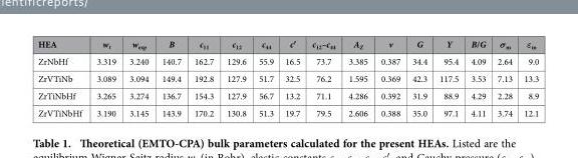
<table><thead><tr><td>HEA</td><td>w<sub>t</sub></td><td>w<sub>exp</sub></td><td>B</td><td>c<sub>11</sub></td><td>c<sub>12</sub></td><td>c<sub>44</sub></td><td>c′</td><td>c<sub>12</sub>–c<sub>44</sub></td><td>A<sub>Z</sub></td><td>v</td><td>G</td><td>Y</td><td>B/G</td><td>σ<sub>m</sub></td><td>ε<sub>m</sub></td></tr></thead><tbody><tr><td>ZrNbHf</td><td>3.319</td><td>3.240</td><td>140.7</td><td>162.7</td><td>129.6</td><td>55.9</td><td>16.5</td><td>73.7</td><td>3.385</td><td>0.387</td><td>34.4</td><td>95.4</td><td>4.09</td><td>2.64</td><td>9.0</td></tr><tr><td>ZrVTiNb</td><td>3.089</td><td>3.094</td><td>149.4</td><td>192.8</td><td>127.9</td><td>51.7</td><td>32.5</td><td>76.2</td><td>1.595</td><td>0.369</td><td>42.3</td><td>117.5</td><td>3.53</td><td>7.13</td><td>13.3</td></tr><tr><td>ZrTiNbHf</td><td>3.265</td><td>3.274</td><td>136.7</td><td>154.3</td><td>127.9</td><td>56.7</td><td>13.2</td><td>71.1</td><td>4.286</td><td>0.392</td><td>31.9</td><td>88.9</td><td>4.29</td><td>2.28</td><td>8.9</td></tr><tr><td>ZrVTiNbHf</td><td>3.190</td><td>3.145</td><td>143.9</td><td>170.2</td><td>130.8</td><td>51.3</td><td>19.7</td><td>79.5</td><td>2.606</td><td>0.388</td><td>35.0</td><td>97.1</td><td>4.11</td><td>3.74</td><td>12.1</td></tr></tbody></table>